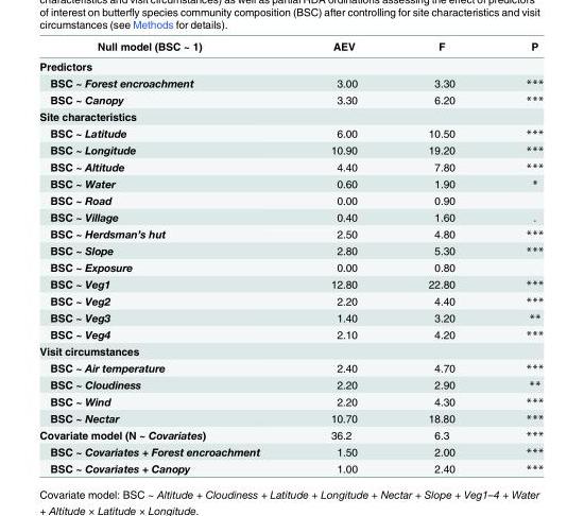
<table><thead><tr><td>Null model (BSC ~ 1)</td><td>AEV</td><td>F</td><td>P</td></tr></thead><tbody><tr><td colspan="4">Predictors</td></tr><tr><td>BSC ~ Forest encroachment</td><td>3.00</td><td>3.30</td><td>***</td></tr><tr><td>BSC ~ Canopy</td><td>3.30</td><td>6.20</td><td>***</td></tr><tr><td colspan="4">Site characteristics</td></tr><tr><td>BSC ~ Latitude</td><td>6.00</td><td>10.50</td><td>***</td></tr><tr><td>BSC ~ Longitude</td><td>10.90</td><td>19.20</td><td>***</td></tr><tr><td>BSC ~ Altitude</td><td>4.40</td><td>7.80</td><td>***</td></tr><tr><td>BSC ~ Water</td><td>0.60</td><td>1.90</td><td>*</td></tr><tr><td>BSC ~ Road</td><td>0.00</td><td>0.90</td><td></td></tr><tr><td>BSC ~ Village</td><td>0.40</td><td>1.60</td><td>.</td></tr><tr><td>BSC ~ Herdsman’s hut</td><td>2.50</td><td>4.80</td><td>***</td></tr><tr><td>BSC ~ Slope</td><td>2.80</td><td>5.30</td><td>***</td></tr><tr><td>BSC ~ Exposure</td><td>0.00</td><td>0.80</td><td></td></tr><tr><td>BSC ~ Veg1</td><td>12.80</td><td>22.80</td><td>***</td></tr><tr><td>BSC ~ Veg2</td><td>2.20</td><td>4.40</td><td>***</td></tr><tr><td>BSC ~ Veg3</td><td>1.40</td><td>3.20</td><td>**</td></tr><tr><td>BSC ~ Veg4</td><td>2.10</td><td>4.20</td><td>***</td></tr><tr><td colspan="4">Visit circumstances</td></tr><tr><td>BSC ~ Air temperature</td><td>2.40</td><td>4.70</td><td>***</td></tr><tr><td>BSC ~ Cloudiness</td><td>2.20</td><td>2.90</td><td>**</td></tr><tr><td>BSC ~ Wind</td><td>2.20</td><td>4.30</td><td>***</td></tr><tr><td>BSC ~ Nectar</td><td>10.70</td><td>18.80</td><td>***</td></tr><tr><td>Covariate model (N ~ Covariates)</td><td>36.2</td><td>6.3</td><td>***</td></tr><tr><td>BSC ~ Covariates + Forest encroachment</td><td>1.50</td><td>2.00</td><td>***</td></tr><tr><td>BSC ~ Covariates + Canopy</td><td>1.00</td><td>2.40</td><td>***</td></tr></tbody></table>